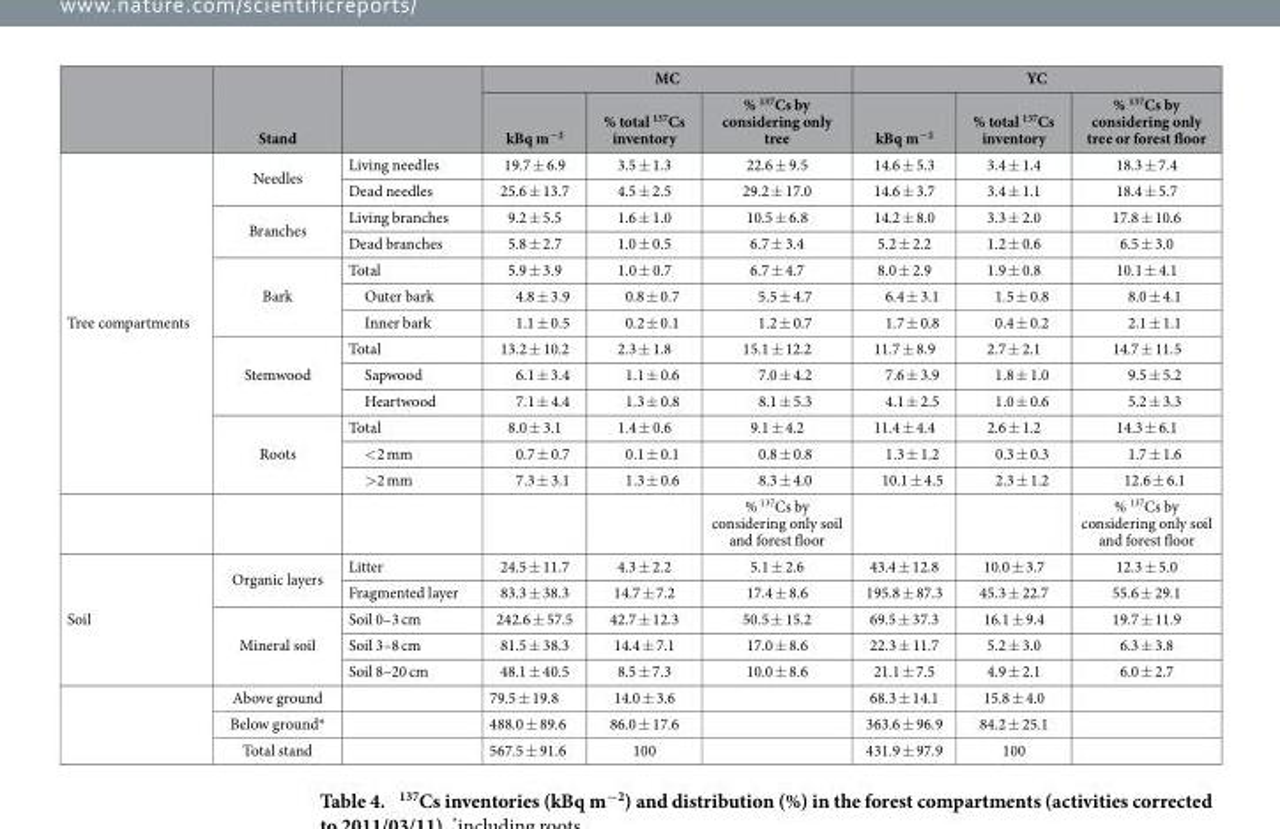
<table><thead><tr><td rowspan="2"></td><td rowspan="2">Stand</td><td rowspan="2"></td><td colspan="3">MC</td><td colspan="3">YC</td></tr><tr><td>kBq m<sup>−2</sup></td><td>% total <sup>137</sup>Cs inventory</td><td>% <sup>137</sup>Cs by considering only tree</td><td>kBq m<sup>−2</sup></td><td>% total <sup>137</sup>Cs inventory</td><td>% <sup>137</sup>Cs by considering only tree or forest floor</td></tr></thead><tbody><tr><td rowspan="14">Tree compartments</td><td rowspan="2">Needles</td><td>Living needles</td><td>19.7 ± 6.9</td><td>3.5 ± 1.3</td><td>22.6 ± 9.5</td><td>14.6 ± 5.3</td><td>3.4 ± 1.4</td><td>18.3 ± 7.4</td></tr><tr><td>Dead needles</td><td>25.6 ± 13.7</td><td>4.5 ± 2.5</td><td>29.2 ± 17.0</td><td>14.6 ± 3.7</td><td>3.4 ± 1.1</td><td>18.4 ± 5.7</td></tr><tr><td rowspan="2">Branches</td><td>Living branches</td><td>9.2 ± 5.5</td><td>1.6 ± 1.0</td><td>10.5 ± 6.8</td><td>14.2 ± 8.0</td><td>3.3 ± 2.0</td><td>17.8 ± 10.6</td></tr><tr><td>Dead branches</td><td>5.8 ± 2.7</td><td>1.0 ± 0.5</td><td>6.7 ± 3.4</td><td>5.2 ± 2.2</td><td>1.2 ± 0.6</td><td>6.5 ± 3.0</td></tr><tr><td rowspan="3">Bark</td><td>Total</td><td>5.9 ± 3.9</td><td>1.0 ± 0.7</td><td>6.7 ± 4.7</td><td>8.0 ± 2.9</td><td>1.9 ± 0.8</td><td>10.1 ± 4.1</td></tr><tr><td>Outer bark</td><td>4.8 ± 3.9</td><td>0.8 ± 0.7</td><td>5.5 ± 4.7</td><td>6.4 ± 3.1</td><td>1.5 ± 0.8</td><td>8.0 ± 4.1</td></tr><tr><td>Inner bark</td><td>1.1 ± 0.5</td><td>0.2 ± 0.1</td><td>1.2 ± 0.7</td><td>1.7 ± 0.8</td><td>0.4 ± 0.2</td><td>2.1 ± 1.1</td></tr><tr><td rowspan="3">Stemwood</td><td>Total</td><td>13.2 ± 10.2</td><td>2.3 ± 1.8</td><td>15.1 ± 12.2</td><td>11.7 ± 8.9</td><td>2.7 ± 2.1</td><td>14.7 ± 11.5</td></tr><tr><td>Sapwood</td><td>6.1 ± 3.4</td><td>1.1 ± 0.6</td><td>7.0 ± 4.2</td><td>7.6 ± 3.9</td><td>1.8 ± 1.0</td><td>9.5 ± 5.2</td></tr><tr><td>Heartwood</td><td>7.1 ± 4.4</td><td>1.3 ± 0.8</td><td>8.1 ± 5.3</td><td>4.1 ± 2.5</td><td>1.0 ± 0.6</td><td>5.2 ± 3.3</td></tr><tr><td rowspan="3">Roots</td><td>Total</td><td>8.0 ± 3.1</td><td>1.4 ± 0.6</td><td>9.1 ± 4.2</td><td>11.4 ± 4.4</td><td>2.6 ± 1.2</td><td>14.3 ± 6.1</td></tr><tr><td>&lt; 2 mm</td><td>0.7 ± 0.7</td><td>0.1 ± 0.1</td><td>0.8 ± 0.8</td><td>1.3 ± 1.2</td><td>0.3 ± 0.3</td><td>1.7 ± 1.6</td></tr><tr><td>&gt; 2 mm</td><td>7.3 ± 3.1</td><td>1.3 ± 0.6</td><td>8.3 ± 4.0</td><td>10.1 ± 4.5</td><td>2.3 ± 1.2</td><td>12.6 ± 6.1</td></tr><tr><td></td><td></td><td></td><td></td><td>% <sup>137</sup>Cs by considering only soil and forest floor</td><td></td><td></td><td>% <sup>137</sup>Cs by considering only soil and forest floor</td></tr><tr><td rowspan="8">Soil</td><td rowspan="2">Organic layers</td><td>Litter</td><td>24.5 ± 11.7</td><td>4.3 ± 2.2</td><td>5.1 ± 2.6</td><td>43.4 ± 12.8</td><td>10.0 ± 3.7</td><td>12.3 ± 5.0</td></tr><tr><td>Fragmented layer</td><td>83.3 ± 38.3</td><td>14.7 ± 7.2</td><td>17.4 ± 8.6</td><td>195.8 ± 87.3</td><td>45.3 ± 22.7</td><td>55.6 ± 29.1</td></tr><tr><td rowspan="3">Mineral soil</td><td>Soil 0–3 cm</td><td>242.6 ± 57.5</td><td>42.7 ± 12.3</td><td>50.5 ± 15.2</td><td>69.5 ± 37.3</td><td>16.1 ± 9.4</td><td>19.7 ± 11.9</td></tr><tr><td>Soil 3–8 cm</td><td>81.5 ± 38.3</td><td>14.4 ± 7.1</td><td>17.0 ± 8.6</td><td>22.3 ± 11.7</td><td>5.2 ± 3.0</td><td>6.3 ± 3.8</td></tr><tr><td>Soil 8–20 cm</td><td>48.1 ± 40.5</td><td>8.5 ± 7.3</td><td>10.0 ± 8.6</td><td>21.1 ± 7.5</td><td>4.9 ± 2.1</td><td>6.0 ± 2.7</td></tr><tr><td>Above ground</td><td></td><td>79.5 ± 19.8</td><td>14.0 ± 3.6</td><td></td><td>68.3 ± 14.1</td><td>15.8 ± 4.0</td><td></td></tr><tr><td>Below ground*</td><td></td><td>488.0 ± 89.6</td><td>86.0 ± 17.6</td><td></td><td>363.6 ± 96.9</td><td>84.2 ± 25.1</td><td></td></tr><tr><td>Total stand</td><td></td><td>567.5 ± 91.6</td><td>100</td><td></td><td>431.9 ± 97.9</td><td>100</td><td></td></tr></tbody></table>